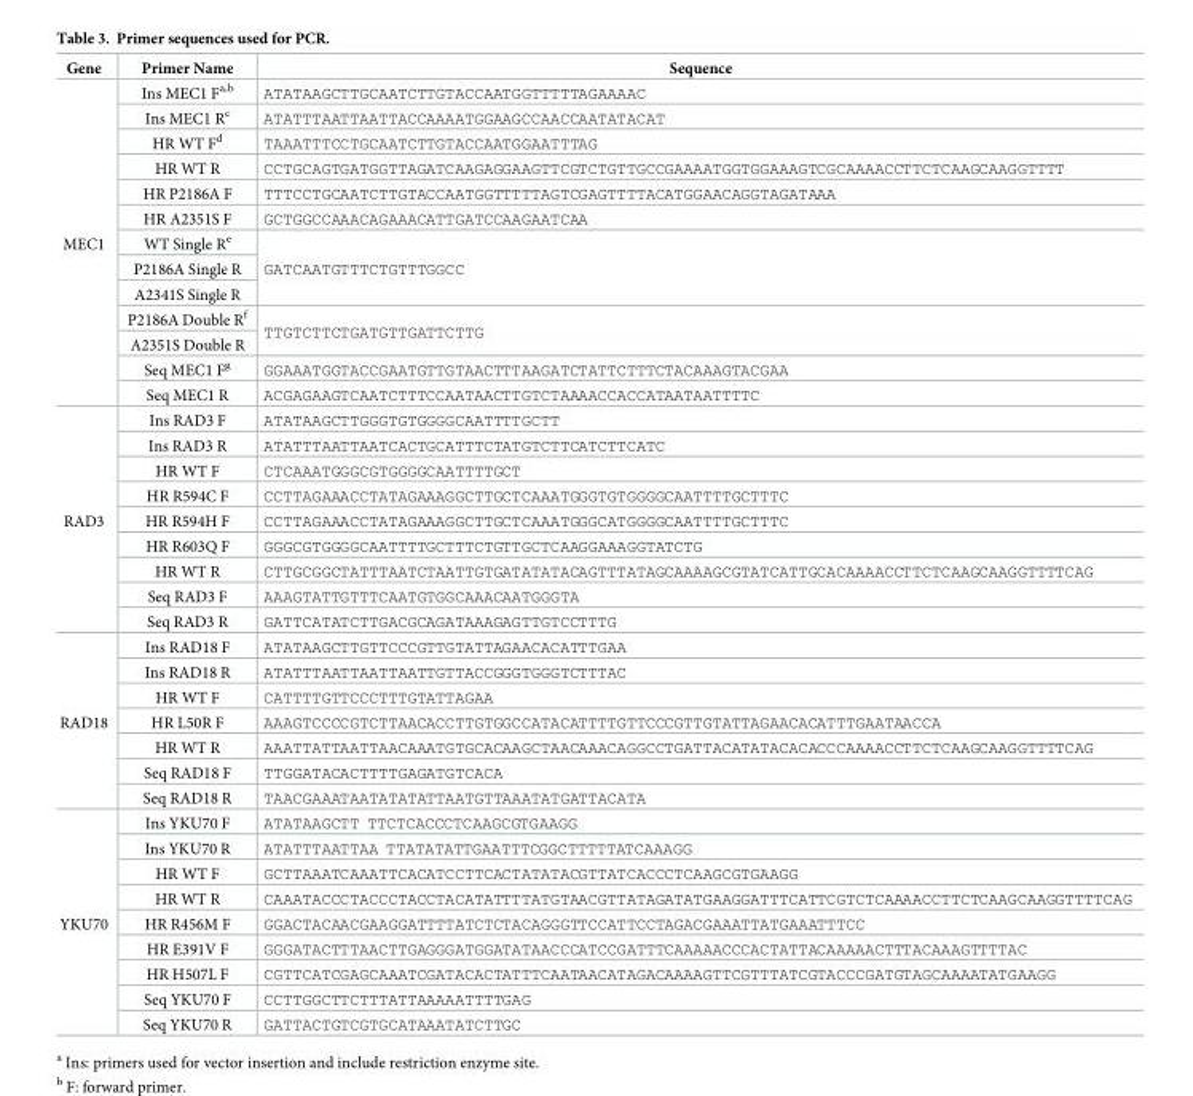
<table><thead><tr><td>Gene</td><td>Primer Name</td><td>Sequence</td></tr></thead><tbody><tr><td rowspan="13">MEC1</td><td>Ins MEC1 F<sup>a,b</sup></td><td>ATATAAGCTTGCAATCTTGTACCAATGGTTTTTAGAAAAC</td></tr><tr><td>Ins MEC1 R<sup>c</sup></td><td>ATATTTAATTAATTACCAAAATGGAAGCCAACCAATATACAT</td></tr><tr><td>HR WT F<sup>d</sup></td><td>TAAATTTCCTGCAATCTTGTACCAATGGAATTTAG</td></tr><tr><td>HR WT R</td><td>CCTGCAGTGATGGTTAGATCAAGAGGAAGTTCGTCTGTTGCCGAAAATGGTGGAAAGTCGCAAAACCTTCTCAAGCAAGGTTTT</td></tr><tr><td>HR P2186A F</td><td>TTTCCTGCAATCTTGTACCAATGGTTTTTAGTCGAGTTTTACATGGAACAGGTAGATAAA</td></tr><tr><td>HR A2351S F</td><td>GCTGGCCAAACAGAAACATTGATCCAAGAATCAA</td></tr><tr><td>WT Single R<sup>e</sup></td><td rowspan="3">GATCAATGTTTCTGTTTGGCC</td></tr><tr><td>P2186A Single R</td></tr><tr><td>A2341S Single R</td></tr><tr><td>P2186A Double R<sup>f</sup></td><td rowspan="2">TTGTCTTCTGATGTTGATTCTTG</td></tr><tr><td>A2351S Double R</td></tr><tr><td>Seq MEC1 F<sup>g</sup></td><td>GGAAATGGTACCGAATGTTGTAACTTTAAGATCTATTCTTTCTACAAAGTACGAA</td></tr><tr><td>Seq MEC1 R</td><td>ACGAGAAGTCAATCTTTCCAATAACTTGTCTAAAACCACCATAATAATTTTC</td></tr><tr><td rowspan="9">RAD3</td><td>Ins RAD3 F</td><td>ATATAAGCTTGGGTGTGGGGCAATTTTGCTT</td></tr><tr><td>Ins RAD3 R</td><td>ATATTTAATTAATCACTGCATTTCTATGTCTTCATCTTCATC</td></tr><tr><td>HR WT F</td><td>CTCAAATGGGCGTGGGGCAATTTTGCT</td></tr><tr><td>HR R594C F</td><td>CCTTAGAAACCTATAGAAAGGCTTGCTCAAATGGGTGTGGGGCAATTTTGCTTTC</td></tr><tr><td>HR R594H F</td><td>CCTTAGAAACCTATAGAAAGGCTTGCTCAAATGGGCATGGGGCAATTTTGCTTTC</td></tr><tr><td>HR R603Q F</td><td>GGGCGTGGGGCAATTTTGCTTTCTGTTGCTCAAGGAAAGGTATCTG</td></tr><tr><td>HR WT R</td><td>CTTGCGGCTATTTAATCTAATTGTGATATATACAGTTTATAGCAAAAGCGTATCATTGCACAAAACCTTCTCAAGCAAGGTTTTCAG</td></tr><tr><td>Seq RAD3 F</td><td>AAAGTATTGTTTCAATGTGGCAAACAATGGGTA</td></tr><tr><td>Seq RAD3 R</td><td>GATTCATATCTTGACGCAGATAAAGAGTTGTCCTTTG</td></tr><tr><td rowspan="7">RAD18</td><td>Ins RAD18 F</td><td>ATATAAGCTTGTTCCCGTTGTATTAGAACACATTTGAA</td></tr><tr><td>Ins RAD18 R</td><td>ATATTTAATTAATTAATTGTTACCGGGTGGGTCTTTAC</td></tr><tr><td>HR WT F</td><td>CATTTTGTTCCCTTTGTATTAGAA</td></tr><tr><td>HR L50R F</td><td>AAAGTCCCCGTCTTAACACCTTGTGGCCATACATTTTGTTCCCGTTGTATTAGAACACATTTGAATAACCA</td></tr><tr><td>HR WT R</td><td>AAATTATTAATTAACAAATGTGCACAAGCTAACAAACAGGCCTGATTACATATACACACCCAAAACCTTCTCAAGCAAGGTTTTCAG</td></tr><tr><td>Seq RAD18 F</td><td>TTGGATACACTTTTGAGATGTCACA</td></tr><tr><td>Seq RAD18 R</td><td>TAACGAAATAATATATATTAATGTTAAATATGATTACATA</td></tr><tr><td rowspan="9">YKU70</td><td>Ins YKU70 F</td><td>ATATAAGCTT TTCTCACCCTCAAGCGTGAAGG</td></tr><tr><td>Ins YKU70 R</td><td>ATATTTAATTAA TTATATATTGAATTTCGGCTTTTTATCAAAGG</td></tr><tr><td>HR WT F</td><td>GCTTAAATCAAATTCACATCCTTCACTATATACGTTATCACCCTCAAGCGTGAAGG</td></tr><tr><td>HR WT R</td><td>CAAATACCCTACCCTACCTACATATTTTATGTAACGTTATAGATATGAAGGATTTCATTCGTCTCAAAACCTTCTCAAGCAAGGTTTTCAG</td></tr><tr><td>HR R456M F</td><td>GGACTACAACGAAGGATTTTATCTCTACAGGGTTCCATTCCTAGACGAAATTATGAAATTTCC</td></tr><tr><td>HR E391V F</td><td>GGGATACTTTAACTTGAGGGATGGATATAACCCATCCGATTTCAAAAACCCACTATTACAAAAACTTTACAAAGTTTTAC</td></tr><tr><td>HR H507L F</td><td>CGTTCATCGAGCAAATCGATACACTATTTCAATAACATAGACAAAAGTTCGTTTATCGTACCCGATGTAGCAAAATATGAAGG</td></tr><tr><td>Seq YKU70 F</td><td>CCTTGGCTTCTTTATTAAAAATTTTGAG</td></tr><tr><td>Seq YKU70 R</td><td>GATTACTGTCGTGCATAAATATCTTGC</td></tr></tbody></table>